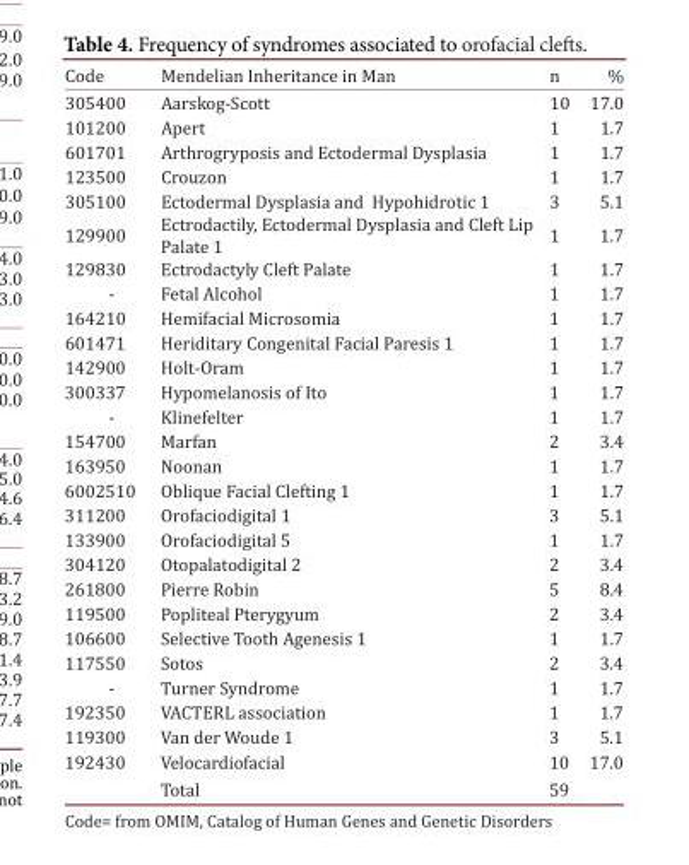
<table><thead><tr><td>Code</td><td>Mendelian Inheritance in Man</td><td>n</td><td>%</td></tr></thead><tbody><tr><td>305400</td><td>Aarskog-Scott</td><td>10</td><td>17.0</td></tr><tr><td>101200</td><td>Apert</td><td>1</td><td>1.7</td></tr><tr><td>601701</td><td>Arthrogryposis and Ectodermal Dysplasia</td><td>1</td><td>1.7</td></tr><tr><td>123500</td><td>Crouzon</td><td>1</td><td>1.7</td></tr><tr><td>305100</td><td>Ectodermal Dysplasia and Hypohidrotic 1</td><td>3</td><td>5.1</td></tr><tr><td>129900</td><td>Ectrodactily, Ectodermal Dysplasia and Cleft Lip Palate 1</td><td>1</td><td>1.7</td></tr><tr><td>129830</td><td>Ectrodactyly Cleft Palate</td><td>1</td><td>1.7</td></tr><tr><td>-</td><td>Fetal Alcohol</td><td>1</td><td>1.7</td></tr><tr><td>164210</td><td>Hemifacial Microsomia</td><td>1</td><td>1.7</td></tr><tr><td>601471</td><td>Heriditary Congenital Facial Paresis 1</td><td>1</td><td>1.7</td></tr><tr><td>142900</td><td>Holt-Oram</td><td>1</td><td>1.7</td></tr><tr><td>300337</td><td>Hypomelanosis of Ito</td><td>1</td><td>1.7</td></tr><tr><td>-</td><td>Klinefelter</td><td>1</td><td>1.7</td></tr><tr><td>154700</td><td>Marfan</td><td>2</td><td>3.4</td></tr><tr><td>163950</td><td>Noonan</td><td>1</td><td>1.7</td></tr><tr><td>6002510</td><td>Oblique Facial Clefting 1</td><td>1</td><td>1.7</td></tr><tr><td>311200</td><td>Orofaciodigital 1</td><td>3</td><td>5.1</td></tr><tr><td>133900</td><td>Orofaciodigital 5</td><td>1</td><td>1.7</td></tr><tr><td>304120</td><td>Otopalatodigital 2</td><td>2</td><td>3.4</td></tr><tr><td>261800</td><td>Pierre Robin</td><td>5</td><td>8.4</td></tr><tr><td>119500</td><td>Popliteal Pterygyum</td><td>2</td><td>3.4</td></tr><tr><td>106600</td><td>Selective Tooth Agenesis 1</td><td>1</td><td>1.7</td></tr><tr><td>117550</td><td>Sotos</td><td>2</td><td>3.4</td></tr><tr><td>-</td><td>Turner Syndrome</td><td>1</td><td>1.7</td></tr><tr><td>192350</td><td>VACTERL association</td><td>1</td><td>1.7</td></tr><tr><td>119300</td><td>Van der Woude 1</td><td>3</td><td>5.1</td></tr><tr><td rowspan="2">192430</td><td>Velocardiofacial</td><td>10</td><td>17.0</td></tr><tr><td>Total</td><td>59</td><td></td></tr></tbody></table>